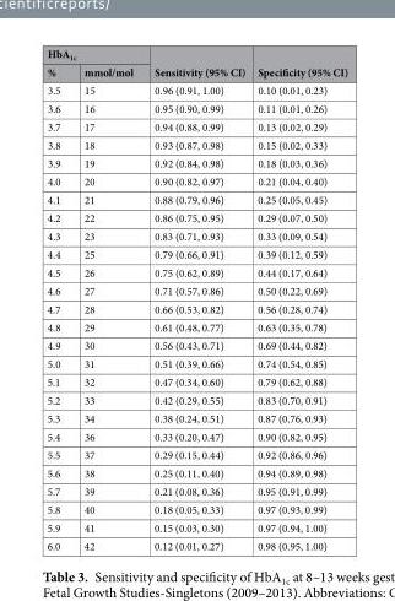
<table><thead><tr><td colspan="2">HbA<sub>1c</sub></td><td rowspan="2">Sensitivity (95% CI)</td><td rowspan="2">Specificity (95% CI)</td></tr><tr><td>%</td><td>mmol/mol</td></tr></thead><tbody><tr><td>3.5</td><td>15</td><td>0.96 (0.91, 1.00)</td><td>0.10 (0.01, 0.23)</td></tr><tr><td>3.6</td><td>16</td><td>0.95 (0.90, 0.99)</td><td>0.11 (0.01, 0.26)</td></tr><tr><td>3.7</td><td>17</td><td>0.94 (0.88, 0.99)</td><td>0.13 (0.02, 0.29)</td></tr><tr><td>3.8</td><td>18</td><td>0.93 (0.87, 0.98)</td><td>0.15 (0.02, 0.33)</td></tr><tr><td>3.9</td><td>19</td><td>0.92 (0.84, 0.98)</td><td>0.18 (0.03, 0.36)</td></tr><tr><td>4.0</td><td>20</td><td>0.90 (0.82, 0.97)</td><td>0.21 (0.04, 0.40)</td></tr><tr><td>4.1</td><td>21</td><td>0.88 (0.79, 0.96)</td><td>0.25 (0.05, 0.45)</td></tr><tr><td>4.2</td><td>22</td><td>0.86 (0.75, 0.95)</td><td>0.29 (0.07, 0.50)</td></tr><tr><td>4.3</td><td>23</td><td>0.83 (0.71, 0.93)</td><td>0.33 (0.09, 0.54)</td></tr><tr><td>4.4</td><td>25</td><td>0.79 (0.66, 0.91)</td><td>0.39 (0.12, 0.59)</td></tr><tr><td>4.5</td><td>26</td><td>0.75 (0.62, 0.89)</td><td>0.44 (0.17, 0.64)</td></tr><tr><td>4.6</td><td>27</td><td>0.71 (0.57, 0.86)</td><td>0.50 (0.22, 0.69)</td></tr><tr><td>4.7</td><td>28</td><td>0.66 (0.53, 0.82)</td><td>0.56 (0.28, 0.74)</td></tr><tr><td>4.8</td><td>29</td><td>0.61 (0.48, 0.77)</td><td>0.63 (0.35, 0.78)</td></tr><tr><td>4.9</td><td>30</td><td>0.56 (0.43, 0.71)</td><td>0.69 (0.44, 0.82)</td></tr><tr><td>5.0</td><td>31</td><td>0.51 (0.39, 0.66)</td><td>0.74 (0.54, 0.85)</td></tr><tr><td>5.1</td><td>32</td><td>0.47 (0.34, 0.60)</td><td>0.79 (0.62, 0.88)</td></tr><tr><td>5.2</td><td>33</td><td>0.42 (0.29, 0.55)</td><td>0.83 (0.70, 0.91)</td></tr><tr><td>5.3</td><td>34</td><td>0.38 (0.24, 0.51)</td><td>0.87 (0.76, 0.93)</td></tr><tr><td>5.4</td><td>36</td><td>0.33 (0.20, 0.47)</td><td>0.90 (0.82, 0.95)</td></tr><tr><td>5.5</td><td>37</td><td>0.29 (0.15, 0.44)</td><td>0.92 (0.86, 0.96)</td></tr><tr><td>5.6</td><td>38</td><td>0.25 (0.11, 0.40)</td><td>0.94 (0.89, 0.98)</td></tr><tr><td>5.7</td><td>39</td><td>0.21 (0.08, 0.36)</td><td>0.95 (0.91, 0.99)</td></tr><tr><td>5.8</td><td>40</td><td>0.18 (0.05, 0.33)</td><td>0.97 (0.93, 0.99)</td></tr><tr><td>5.9</td><td>41</td><td>0.15 (0.03, 0.30)</td><td>0.97 (0.94, 1.00)</td></tr><tr><td>6.0</td><td>42</td><td>0.12 (0.01, 0.27)</td><td>0.98 (0.95, 1.00)</td></tr></tbody></table>